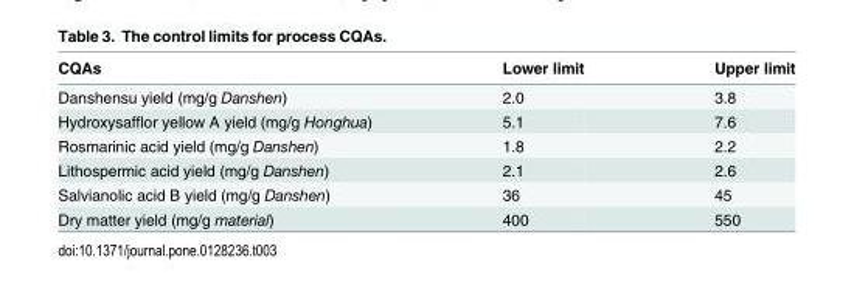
<table><thead><tr><td>CQAs</td><td>Lower limit</td><td>Upper limit</td></tr></thead><tbody><tr><td>Danshensu yield (mg/g Danshen)</td><td>2.0</td><td>3.8</td></tr><tr><td>Hydroxysafflor yellow A yield (mg/g Honghua)</td><td>5.1</td><td>7.6</td></tr><tr><td>Rosmarinic acid yield (mg/g Danshen)</td><td>1.8</td><td>2.2</td></tr><tr><td>Lithospermic acid yield (mg/g Danshen)</td><td>2.1</td><td>2.6</td></tr><tr><td>Salvianolic acid B yield (mg/g Danshen)</td><td>36</td><td>45</td></tr><tr><td>Dry matter yield (mg/g material)</td><td>400</td><td>550</td></tr></tbody></table>